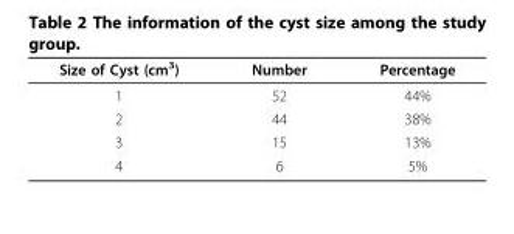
<table><thead><tr><td>Size of Cyst (cm<sup>3</sup>)</td><td>Number</td><td>Percentage</td></tr></thead><tbody><tr><td>1</td><td>52</td><td>44%</td></tr><tr><td>2</td><td>44</td><td>38%</td></tr><tr><td>3</td><td>15</td><td>13%</td></tr><tr><td>4</td><td>6</td><td>5%</td></tr></tbody></table>